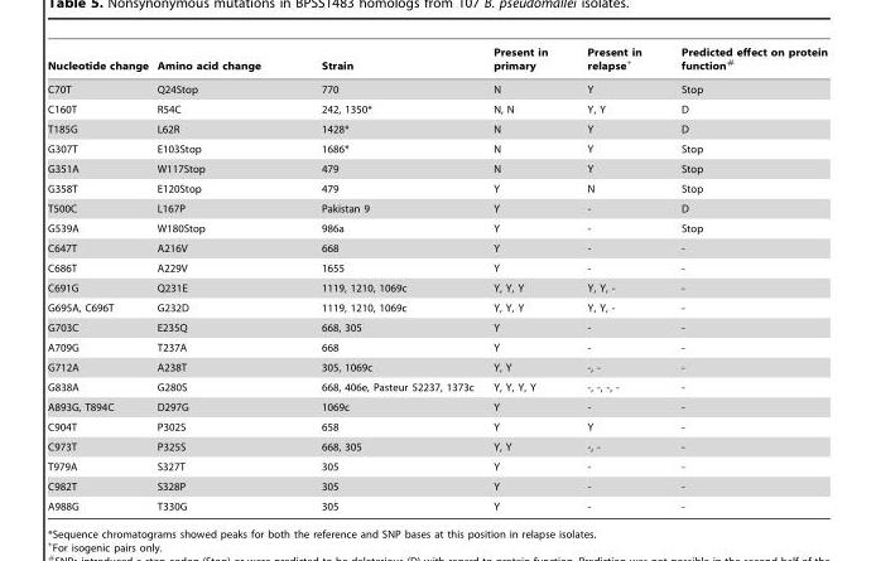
<table><thead><tr><td>Nucleotide change</td><td>Amino acid change</td><td>Strain</td><td>Present in primary</td><td>Present in relapse+</td><td>Predicted effect on protein function#</td></tr></thead><tbody><tr><td>C70T</td><td>Q24Stop</td><td>770</td><td>N</td><td>Y</td><td>Stop</td></tr><tr><td>C160T</td><td>R54C</td><td>242, 1350*</td><td>N, N</td><td>Y, Y</td><td>D</td></tr><tr><td>T185G</td><td>L62R</td><td>1428*</td><td>N</td><td>Y</td><td>D</td></tr><tr><td>G307T</td><td>E103Stop</td><td>1686*</td><td>N</td><td>Y</td><td>Stop</td></tr><tr><td>G351A</td><td>W117Stop</td><td>479</td><td>N</td><td>Y</td><td>Stop</td></tr><tr><td>G358T</td><td>E120Stop</td><td>479</td><td>Y</td><td>N</td><td>Stop</td></tr><tr><td>T500C</td><td>L167P</td><td>Pakistan 9</td><td>Y</td><td>-</td><td>D</td></tr><tr><td>G539A</td><td>W180Stop</td><td>986a</td><td>Y</td><td>-</td><td>Stop</td></tr><tr><td>C647T</td><td>A216V</td><td>668</td><td>Y</td><td>-</td><td>-</td></tr><tr><td>C686T</td><td>A229V</td><td>1655</td><td>Y</td><td>-</td><td>-</td></tr><tr><td>C691G</td><td>Q231E</td><td>1119, 1210, 1069c</td><td>Y, Y, Y</td><td>Y, Y, -</td><td>-</td></tr><tr><td>G695A, C696T</td><td>G232D</td><td>1119, 1210, 1069c</td><td>Y, Y, Y</td><td>Y, Y, -</td><td>-</td></tr><tr><td>G703C</td><td>E235Q</td><td>668, 305</td><td>Y</td><td>-</td><td>-</td></tr><tr><td>A709G</td><td>T237A</td><td>668</td><td>Y</td><td>-</td><td>-</td></tr><tr><td>G712A</td><td>A238T</td><td>305, 1069c</td><td>Y, Y</td><td>-, -</td><td>-</td></tr><tr><td>G838A</td><td>G280S</td><td>668, 406e, Pasteur 52237, 1373c</td><td>Y, Y, Y, Y</td><td>-, -, -, -</td><td>-</td></tr><tr><td>A893G, T894C</td><td>D297G</td><td>1069c</td><td>Y</td><td>-</td><td>-</td></tr><tr><td>C904T</td><td>P302S</td><td>658</td><td>Y</td><td>Y</td><td>-</td></tr><tr><td>C973T</td><td>P325S</td><td>668, 305</td><td>Y, Y</td><td>-, -</td><td>-</td></tr><tr><td>T979A</td><td>S327T</td><td>305</td><td>Y</td><td>-</td><td>-</td></tr><tr><td>C982T</td><td>S328P</td><td>305</td><td>Y</td><td>-</td><td>-</td></tr><tr><td>A988G</td><td>T330G</td><td>305</td><td>Y</td><td>-</td><td>-</td></tr></tbody></table>